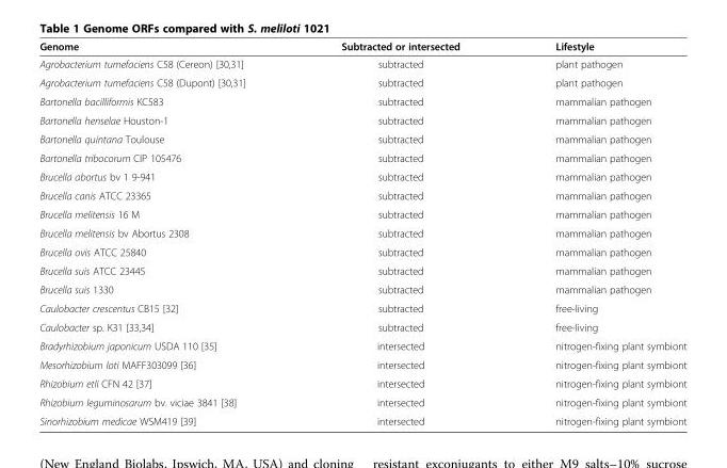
<table><thead><tr><td>Genome</td><td>Subtracted or intersected</td><td>Lifestyle</td></tr></thead><tbody><tr><td>Agrobacterium tumefaciens C58 (Cereon) [30,31]</td><td>subtracted</td><td>plant pathogen</td></tr><tr><td>Agrobacterium tumefaciens C58 (Dupont) [30,31]</td><td>subtracted</td><td>plant pathogen</td></tr><tr><td>Bartonella bacilliformis KC583</td><td>subtracted</td><td>mammalian pathogen</td></tr><tr><td>Bartonella henselae Houston-1</td><td>subtracted</td><td>mammalian pathogen</td></tr><tr><td>Bartonella quintana Toulouse</td><td>subtracted</td><td>mammalian pathogen</td></tr><tr><td>Bartonella tribocorum CIP 105476</td><td>subtracted</td><td>mammalian pathogen</td></tr><tr><td>Brucella abortus bv 1 9-941</td><td>subtracted</td><td>mammalian pathogen</td></tr><tr><td>Brucella canis ATCC 23365</td><td>subtracted</td><td>mammalian pathogen</td></tr><tr><td>Brucella melitensis 16 M</td><td>subtracted</td><td>mammalian pathogen</td></tr><tr><td>Brucella melitensis bv Abortus 2308</td><td>subtracted</td><td>mammalian pathogen</td></tr><tr><td>Brucella ovis ATCC 25840</td><td>subtracted</td><td>mammalian pathogen</td></tr><tr><td>Brucella suis ATCC 23445</td><td>subtracted</td><td>mammalian pathogen</td></tr><tr><td>Brucella suis 1330</td><td>subtracted</td><td>mammalian pathogen</td></tr><tr><td>Caulobacter crescentus CB15 [32]</td><td>subtracted</td><td>free-living</td></tr><tr><td>Caulobacter sp. K31 [33,34]</td><td>subtracted</td><td>free-living</td></tr><tr><td>Bradyrhizobium japonicum USDA 110 [35]</td><td>intersected</td><td>nitrogen-fixing plant symbiont</td></tr><tr><td>Mesorhizobium loti MAFF303099 [36]</td><td>intersected</td><td>nitrogen-fixing plant symbiont</td></tr><tr><td>Rhizobium etli CFN 42 [37]</td><td>intersected</td><td>nitrogen-fixing plant symbiont</td></tr><tr><td>Rhizobium leguminosarum bv. viciae 3841 [38]</td><td>intersected</td><td>nitrogen-fixing plant symbiont</td></tr><tr><td>Sinorhizobium medicae WSM419 [39]</td><td>intersected</td><td>nitrogen-fixing plant symbiont</td></tr></tbody></table>